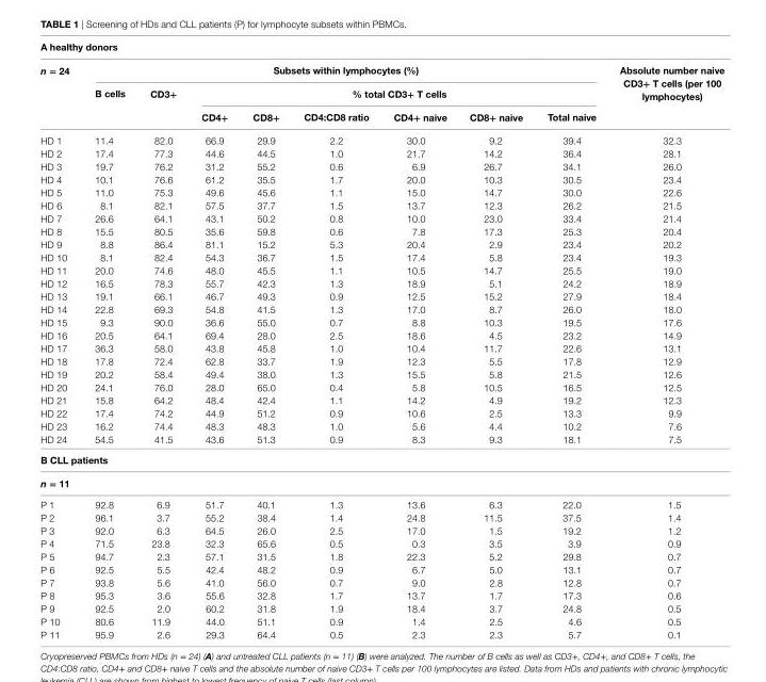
<table><thead><tr><td colspan="10">a healthy donors</td></tr><tr><td rowspan="3">n = 24</td><td colspan="8">subsets within lymphocytes (%)</td><td rowspan="3">absolute number naive cD3+ T cells (per 100 lymphocytes)</td></tr><tr><td rowspan="2">b cells</td><td rowspan="2">cD3+</td><td colspan="6">% total cD3+ T cells</td></tr><tr><td>cD4+</td><td>cD8+</td><td>cD4:cD8 ratio</td><td>cD4+ naive</td><td>cD8+ naive</td><td>Total naive</td></tr></thead><tbody><tr><td>HD 1</td><td>11.4</td><td>82.0</td><td>66.9</td><td>29.9</td><td>2.2</td><td>30.0</td><td>9.2</td><td>39.4</td><td>32.3</td></tr><tr><td>HD 2</td><td>17.4</td><td>77.3</td><td>44.6</td><td>44.5</td><td>1.0</td><td>21.7</td><td>14.2</td><td>36.4</td><td>28.1</td></tr><tr><td>HD 3</td><td>19.7</td><td>76.2</td><td>31.2</td><td>55.2</td><td>0.6</td><td>6.9</td><td>26.7</td><td>34.1</td><td>26.0</td></tr><tr><td>HD 4</td><td>10.1</td><td>76.6</td><td>61.2</td><td>35.5</td><td>1.7</td><td>20.0</td><td>10.3</td><td>30.5</td><td>23.4</td></tr><tr><td>HD 5</td><td>11.0</td><td>75.3</td><td>49.6</td><td>45.6</td><td>1.1</td><td>15.0</td><td>14.7</td><td>30.0</td><td>22.6</td></tr><tr><td>HD 6</td><td>8.1</td><td>82.1</td><td>57.5</td><td>37.7</td><td>1.5</td><td>13.7</td><td>12.3</td><td>26.2</td><td>21.5</td></tr><tr><td>HD 7</td><td>26.6</td><td>64.1</td><td>43.1</td><td>50.2</td><td>0.8</td><td>10.0</td><td>23.0</td><td>33.4</td><td>21.4</td></tr><tr><td>HD 8</td><td>15.5</td><td>80.5</td><td>35.6</td><td>59.8</td><td>0.6</td><td>7.8</td><td>17.3</td><td>25.3</td><td>20.4</td></tr><tr><td>HD 9</td><td>8.8</td><td>86.4</td><td>81.1</td><td>15.2</td><td>5.3</td><td>20.4</td><td>2.9</td><td>23.4</td><td>20.2</td></tr><tr><td>HD 10</td><td>8.1</td><td>82.4</td><td>54.3</td><td>36.7</td><td>1.5</td><td>17.4</td><td>5.8</td><td>23.4</td><td>19.3</td></tr><tr><td>HD 11</td><td>20.0</td><td>74.6</td><td>48.0</td><td>45.5</td><td>1.1</td><td>10.5</td><td>14.7</td><td>25.5</td><td>19.0</td></tr><tr><td>HD 12</td><td>16.5</td><td>78.3</td><td>55.7</td><td>42.3</td><td>1.3</td><td>18.9</td><td>5.1</td><td>24.2</td><td>18.9</td></tr><tr><td>HD 13</td><td>19.1</td><td>66.1</td><td>46.7</td><td>49.3</td><td>0.9</td><td>12.5</td><td>15.2</td><td>27.9</td><td>18.4</td></tr><tr><td>HD 14</td><td>22.8</td><td>69.3</td><td>54.8</td><td>41.5</td><td>1.3</td><td>17.0</td><td>8.7</td><td>26.0</td><td>18.0</td></tr><tr><td>HD 15</td><td>9.3</td><td>90.0</td><td>36.6</td><td>55.0</td><td>0.7</td><td>8.8</td><td>10.3</td><td>19.5</td><td>17.6</td></tr><tr><td>HD 16</td><td>20.5</td><td>64.1</td><td>69.4</td><td>28.0</td><td>2.5</td><td>18.6</td><td>4.5</td><td>23.2</td><td>14.9</td></tr><tr><td>HD 17</td><td>36.3</td><td>58.0</td><td>43.8</td><td>45.8</td><td>1.0</td><td>10.4</td><td>11.7</td><td>22.6</td><td>13.1</td></tr><tr><td>HD 18</td><td>17.8</td><td>72.4</td><td>62.8</td><td>33.7</td><td>1.9</td><td>12.3</td><td>5.5</td><td>17.8</td><td>12.9</td></tr><tr><td>HD 19</td><td>20.2</td><td>58.4</td><td>49.4</td><td>38.0</td><td>1.3</td><td>15.5</td><td>5.8</td><td>21.5</td><td>12.6</td></tr><tr><td>HD 20</td><td>24.1</td><td>76.0</td><td>28.0</td><td>65.0</td><td>0.4</td><td>5.8</td><td>10.5</td><td>16.5</td><td>12.5</td></tr><tr><td>HD 21</td><td>15.8</td><td>64.2</td><td>48.4</td><td>42.4</td><td>1.1</td><td>14.2</td><td>4.9</td><td>19.2</td><td>12.3</td></tr><tr><td>HD 22</td><td>17.4</td><td>74.2</td><td>44.9</td><td>51.2</td><td>0.9</td><td>10.6</td><td>2.5</td><td>13.3</td><td>9.9</td></tr><tr><td>HD 23</td><td>16.2</td><td>74.4</td><td>48.3</td><td>48.3</td><td>1.0</td><td>5.6</td><td>4.4</td><td>10.2</td><td>7.6</td></tr><tr><td>HD 24</td><td>54.5</td><td>41.5</td><td>43.6</td><td>51.3</td><td>0.9</td><td>8.3</td><td>9.3</td><td>18.1</td><td>7.5</td></tr><tr><td colspan="10">b cll patients</td></tr><tr><td colspan="10">n = 11</td></tr><tr><td>P 1</td><td>92.8</td><td>6.9</td><td>51.7</td><td>40.1</td><td>1.3</td><td>13.6</td><td>6.3</td><td>22.0</td><td>1.5</td></tr><tr><td>P 2</td><td>96.1</td><td>3.7</td><td>55.2</td><td>38.4</td><td>1.4</td><td>24.8</td><td>11.5</td><td>37.5</td><td>1.4</td></tr><tr><td>P 3</td><td>92.0</td><td>6.3</td><td>64.5</td><td>26.0</td><td>2.5</td><td>17.0</td><td>1.5</td><td>19.2</td><td>1.2</td></tr><tr><td>P 4</td><td>71.5</td><td>23.8</td><td>32.3</td><td>65.6</td><td>0.5</td><td>0.3</td><td>3.5</td><td>3.9</td><td>0.9</td></tr><tr><td>P 5</td><td>94.7</td><td>2.3</td><td>57.1</td><td>31.5</td><td>1.8</td><td>22.3</td><td>5.2</td><td>29.8</td><td>0.7</td></tr><tr><td>P 6</td><td>92.5</td><td>5.5</td><td>42.4</td><td>48.2</td><td>0.9</td><td>6.7</td><td>5.0</td><td>13.1</td><td>0.7</td></tr><tr><td>P 7</td><td>93.8</td><td>5.6</td><td>41.0</td><td>56.0</td><td>0.7</td><td>9.0</td><td>2.8</td><td>12.8</td><td>0.7</td></tr><tr><td>P 8</td><td>95.3</td><td>3.6</td><td>55.6</td><td>32.8</td><td>1.7</td><td>13.7</td><td>1.7</td><td>17.3</td><td>0.6</td></tr><tr><td>P 9</td><td>92.5</td><td>2.0</td><td>60.2</td><td>31.8</td><td>1.9</td><td>18.4</td><td>3.7</td><td>24.8</td><td>0.5</td></tr><tr><td>P 10</td><td>80.6</td><td>11.9</td><td>44.0</td><td>51.1</td><td>0.9</td><td>1.4</td><td>2.5</td><td>4.6</td><td>0.5</td></tr><tr><td>P 11</td><td>95.9</td><td>2.6</td><td>29.3</td><td>64.4</td><td>0.5</td><td>2.3</td><td>2.3</td><td>5.7</td><td>0.1</td></tr></tbody></table>